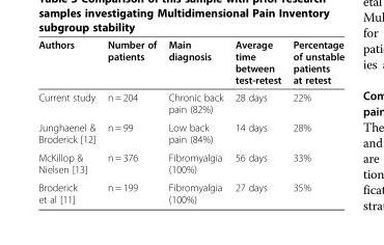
<table><thead><tr><td>Authors</td><td>Number of patients</td><td>Main diagnosis</td><td>Average time between test-retest</td><td>Percentage of unstable patients at retest</td></tr></thead><tbody><tr><td>Current study</td><td>n = 204</td><td>Chronic back pain (82%)</td><td>28 days</td><td>22%</td></tr><tr><td>Junghaenel &amp; Broderick [12]</td><td>n = 99</td><td>Low back pain (84%)</td><td>14 days</td><td>28%</td></tr><tr><td>McKillop &amp; Nielsen [13]</td><td>n = 376</td><td>Fibromyalgia (100%)</td><td>56 days</td><td>33%</td></tr><tr><td>Broderick et al [11]</td><td>n = 199</td><td>Fibromyalgia (100%)</td><td>27 days</td><td>35%</td></tr></tbody></table>